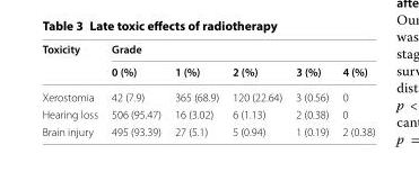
<table><thead><tr><td rowspan="2">Toxicity</td><td colspan="5">Grade</td></tr><tr><td>0 (%)</td><td>1 (%)</td><td>2 (%)</td><td>3 (%)</td><td>4 (%)</td></tr></thead><tbody><tr><td>Xerostomia</td><td>42 (7.9)</td><td>365 (68.9)</td><td>120 (22.64)</td><td>3 (0.56)</td><td>0</td></tr><tr><td>Hearing loss</td><td>506 (95.47)</td><td>16 (3.02)</td><td>6 (1.13)</td><td>2 (0.38)</td><td>0</td></tr><tr><td>Brain injury</td><td>495 (93.39)</td><td>27 (5.1)</td><td>5 (0.94)</td><td>1 (0.19)</td><td>2 (0.38)</td></tr></tbody></table>